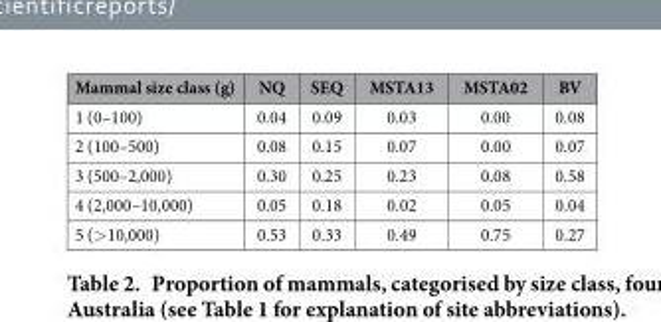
<table><thead><tr><td>Mammal size class (g)</td><td>NQ</td><td>SEQ</td><td>MSTA13</td><td>MSTA02</td><td>BV</td></tr></thead><tbody><tr><td>1 (0–100)</td><td>0.04</td><td>0.09</td><td>0.03</td><td>0.00</td><td>0.08</td></tr><tr><td>2 (100–500)</td><td>0.08</td><td>0.15</td><td>0.07</td><td>0.00</td><td>0.07</td></tr><tr><td>3 (500–2,000)</td><td>0.30</td><td>0.25</td><td>0.23</td><td>0.08</td><td>0.58</td></tr><tr><td>4 (2,000–10,000)</td><td>0.05</td><td>0.18</td><td>0.02</td><td>0.05</td><td>0.04</td></tr><tr><td>5 (&gt;10,000)</td><td>0.53</td><td>0.33</td><td>0.49</td><td>0.75</td><td>0.27</td></tr></tbody></table>